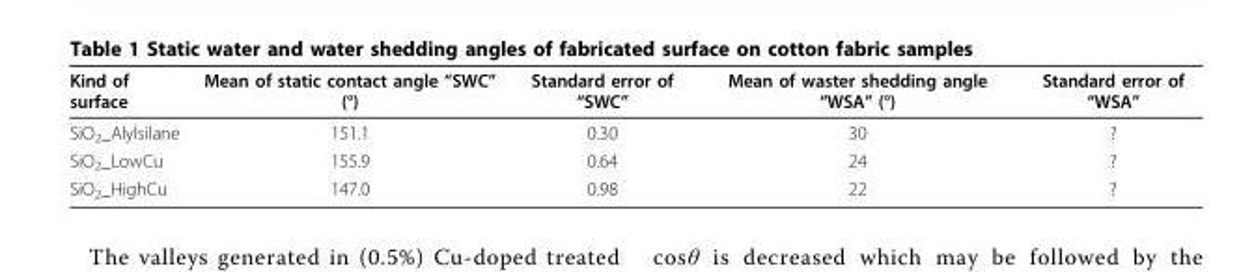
<table><thead><tr><td>Kind of surface</td><td>Mean of static contact angle “SWC” (°)</td><td>Standard error of “SWC”</td><td>Mean of waster shedding angle “WSA” (°)</td><td>Standard error of “WSA”</td></tr></thead><tbody><tr><td>SiO2_Alylsilane</td><td>151.1</td><td>0.30</td><td>30</td><td>?</td></tr><tr><td>SiO2_LowCu</td><td>155.9</td><td>0.64</td><td>24</td><td>?</td></tr><tr><td>SiO2_HighCu</td><td>147.0</td><td>0.98</td><td>22</td><td>?</td></tr></tbody></table>